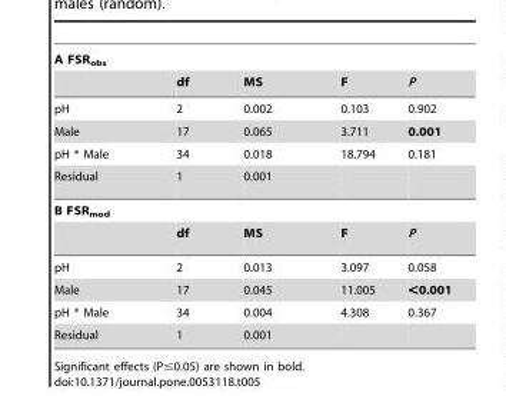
<table><thead><tr><td rowspan="2">A FSR<sub>obs</sub></td><td rowspan="2">df</td><td rowspan="2">MS</td><td rowspan="2">F</td><td rowspan="2">P</td></tr><tr></tr></thead><tbody><tr><td>pH</td><td>2</td><td>0.002</td><td>0.103</td><td>0.902</td></tr><tr><td>Male</td><td>17</td><td>0.065</td><td>3.711</td><td>0.001</td></tr><tr><td>pH * Male</td><td>34</td><td>0.018</td><td>18.794</td><td>0.181</td></tr><tr><td>Residual</td><td>1</td><td>0.001</td><td></td><td></td></tr><tr><td colspan="5">B FSR<sub>mod</sub></td></tr><tr><td></td><td>df</td><td>MS</td><td>F</td><td>P</td></tr><tr><td>pH</td><td>2</td><td>0.013</td><td>3.097</td><td>0.058</td></tr><tr><td>Male</td><td>17</td><td>0.045</td><td>11.005</td><td>&lt;0.001</td></tr><tr><td>pH * Male</td><td>34</td><td>0.004</td><td>4.308</td><td>0.367</td></tr><tr><td>Residual</td><td>1</td><td>0.001</td><td></td><td></td></tr></tbody></table>